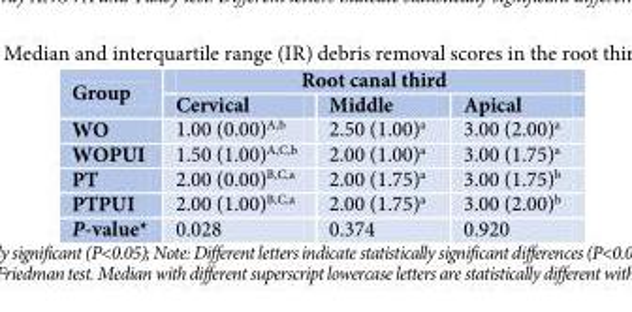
<table><thead><tr><td rowspan="2">Group</td><td colspan="3">Root canal third</td></tr><tr><td>Cervical</td><td>Middle</td><td>Apical</td></tr></thead><tbody><tr><td>WO</td><td>1.00 (0.00)<sup>A,b</sup></td><td>2.50 (1.00)<sup>a</sup></td><td>3.00 (2.00)<sup>a</sup></td></tr><tr><td>WOPUI</td><td>1.50 (1.00)<sup>A,C,b</sup></td><td>2.00 (1.00)<sup>a</sup></td><td>3.00 (1.75)<sup>a</sup></td></tr><tr><td>PT</td><td>2.00 (0.00)<sup>B,C,a</sup></td><td>2.00 (1.75)<sup>a</sup></td><td>3.00 (1.75)<sup>b</sup></td></tr><tr><td>PTPUI</td><td>2.00 (1.00)<sup>B,C,a</sup></td><td>2.00 (1.75)<sup>a</sup></td><td>3.00 (2.00)<sup>b</sup></td></tr><tr><td>P-value*</td><td>0.028</td><td>0.374</td><td>0.920</td></tr></tbody></table>